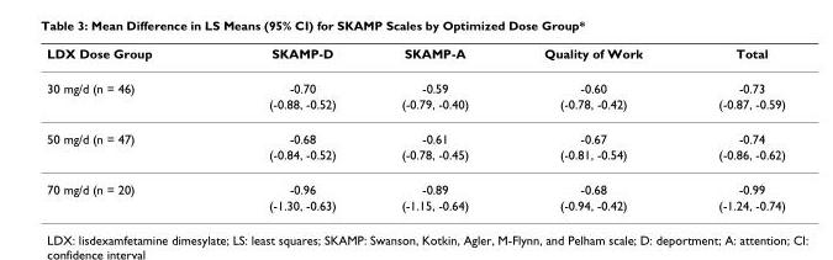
<table><thead><tr><td>LDX Dose Group</td><td>SKAMP-D</td><td>SKAMP-A</td><td>Quality of Work</td><td>Total</td></tr></thead><tbody><tr><td rowspan="2">30 mg/d (n = 46)</td><td>-0.70</td><td>-0.59</td><td>-0.60</td><td>-0.73</td></tr><tr><td>(-0.88, -0.52)</td><td>(-0.79, -0.40)</td><td>(-0.78, -0.42)</td><td>(-0.87, -0.59)</td></tr><tr><td rowspan="2">50 mg/d (n = 47)</td><td>-0.68</td><td>-0.61</td><td>-0.67</td><td>-0.74</td></tr><tr><td>(-0.84, -0.52)</td><td>(-0.78, -0.45)</td><td>(-0.81, -0.54)</td><td>(-0.86, -0.62)</td></tr><tr><td rowspan="2">70 mg/d (n = 20)</td><td>-0.96</td><td>-0.89</td><td>-0.68</td><td>-0.99</td></tr><tr><td>(-1.30, -0.63)</td><td>(-1.15, -0.64)</td><td>(-0.94, -0.42)</td><td>(-1.24, -0.74)</td></tr></tbody></table>